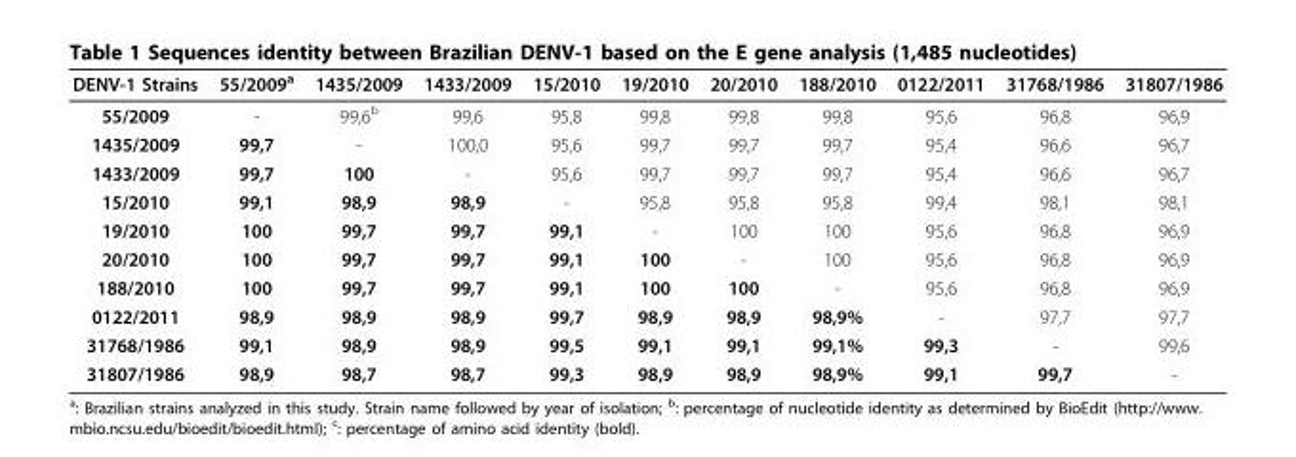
<table><thead><tr><td>DENV-1 Strains</td><td>55/2009<sup>a</sup></td><td>1435/2009</td><td>1433/2009</td><td>15/2010</td><td>19/2010</td><td>20/2010</td><td>188/2010</td><td>0122/2011</td><td>31768/1986</td><td>31807/1986</td></tr></thead><tbody><tr><td>55/2009</td><td>-</td><td>99,6<sup>b</sup></td><td>99,6</td><td>95,8</td><td>99,8</td><td>99,8</td><td>99,8</td><td>95,6</td><td>96,8</td><td>96,9</td></tr><tr><td>1435/2009</td><td>99,7</td><td>-</td><td>100,0</td><td>95,6</td><td>99,7</td><td>99,7</td><td>99,7</td><td>95,4</td><td>96,6</td><td>96,7</td></tr><tr><td>1433/2009</td><td>99,7</td><td>100</td><td>-</td><td>95,6</td><td>99,7</td><td>99,7</td><td>99,7</td><td>95,4</td><td>96,6</td><td>96,7</td></tr><tr><td>15/2010</td><td>99,1</td><td>98,9</td><td>98,9</td><td>-</td><td>95,8</td><td>95,8</td><td>95,8</td><td>99,4</td><td>98,1</td><td>98,1</td></tr><tr><td>19/2010</td><td>100</td><td>99,7</td><td>99,7</td><td>99,1</td><td>-</td><td>100</td><td>100</td><td>95,6</td><td>96,8</td><td>96,9</td></tr><tr><td>20/2010</td><td>100</td><td>99,7</td><td>99,7</td><td>99,1</td><td>100</td><td>-</td><td>100</td><td>95,6</td><td>96,8</td><td>96,9</td></tr><tr><td>188/2010</td><td>100</td><td>99,7</td><td>99,7</td><td>99,1</td><td>100</td><td>100</td><td>-</td><td>95,6</td><td>96,8</td><td>96,9</td></tr><tr><td>0122/2011</td><td>98,9</td><td>98,9</td><td>98,9</td><td>99,7</td><td>98,9</td><td>98,9</td><td>98,9%</td><td>-</td><td>97,7</td><td>97,7</td></tr><tr><td>31768/1986</td><td>99,1</td><td>98,9</td><td>98,9</td><td>99,5</td><td>99,1</td><td>99,1</td><td>99,1%</td><td>99,3</td><td>-</td><td>99,6</td></tr><tr><td>31807/1986</td><td>98,9</td><td>98,7</td><td>98,7</td><td>99,3</td><td>98,9</td><td>98,9</td><td>98,9%</td><td>99,1</td><td>99,7</td><td>-</td></tr></tbody></table>